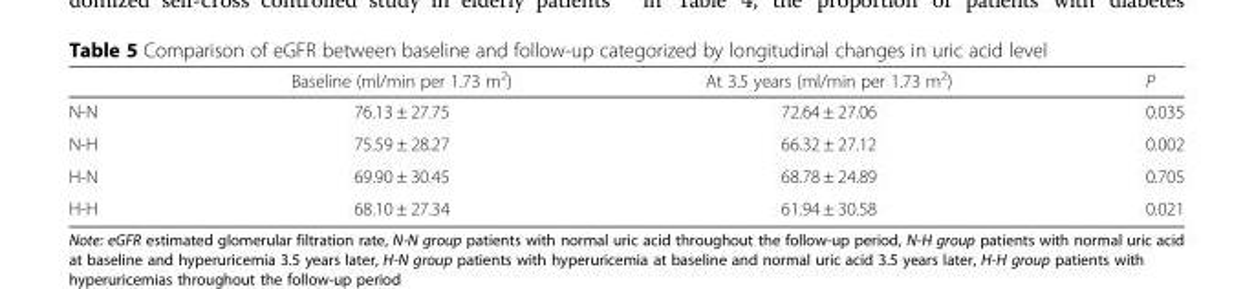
<table><thead><tr><td></td><td>Baseline (ml/min per 1.73 m<sup>2</sup>)</td><td>At 3.5 years (ml/min per 1.73 m<sup>2</sup>)</td><td>P</td></tr></thead><tbody><tr><td>N-N</td><td>76.13 ± 27.75</td><td>72.64 ± 27.06</td><td>0.035</td></tr><tr><td>N-H</td><td>75.59 ± 28.27</td><td>66.32 ± 27.12</td><td>0.002</td></tr><tr><td>H-N</td><td>69.90 ± 30.45</td><td>68.78 ± 24.89</td><td>0.705</td></tr><tr><td>H-H</td><td>68.10 ± 27.34</td><td>61.94 ± 30.58</td><td>0.021</td></tr></tbody></table>